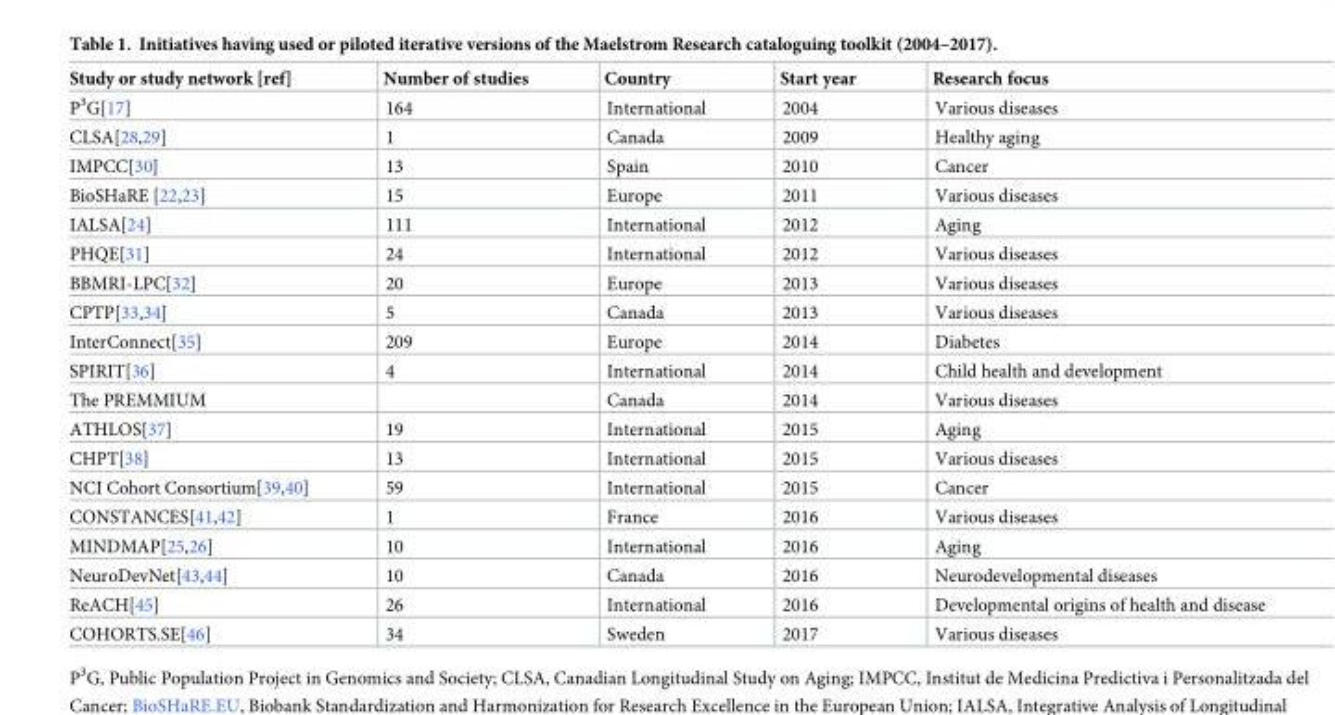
<table><thead><tr><td>Study or study network [ref]</td><td>Number of studies</td><td>Country</td><td>Start year</td><td>Research focus</td></tr></thead><tbody><tr><td>P<sup>3</sup>G[17]</td><td>164</td><td>International</td><td>2004</td><td>Various diseases</td></tr><tr><td>CLSA[28,29]</td><td>1</td><td>Canada</td><td>2009</td><td>Healthy aging</td></tr><tr><td>IMPCC[30]</td><td>13</td><td>Spain</td><td>2010</td><td>Cancer</td></tr><tr><td>BioSHaRE [22,23]</td><td>15</td><td>Europe</td><td>2011</td><td>Various diseases</td></tr><tr><td>IALSA[24]</td><td>111</td><td>International</td><td>2012</td><td>Aging</td></tr><tr><td>PHQE[31]</td><td>24</td><td>International</td><td>2012</td><td>Various diseases</td></tr><tr><td>BBMRI-LPC[32]</td><td>20</td><td>Europe</td><td>2013</td><td>Various diseases</td></tr><tr><td>CPTP[33,34]</td><td>5</td><td>Canada</td><td>2013</td><td>Various diseases</td></tr><tr><td>InterConnect[35]</td><td>209</td><td>Europe</td><td>2014</td><td>Diabetes</td></tr><tr><td>SPIRIT[36]</td><td>4</td><td>International</td><td>2014</td><td>Child health and development</td></tr><tr><td>The PREMMIUM</td><td></td><td>Canada</td><td>2014</td><td>Various diseases</td></tr><tr><td>ATHLOS[37]</td><td>19</td><td>International</td><td>2015</td><td>Aging</td></tr><tr><td>CHPT[38]</td><td>13</td><td>International</td><td>2015</td><td>Various diseases</td></tr><tr><td>NCI Cohort Consortium[39,40]</td><td>59</td><td>International</td><td>2015</td><td>Cancer</td></tr><tr><td>CONSTANCES[41,42]</td><td>1</td><td>France</td><td>2016</td><td>Various diseases</td></tr><tr><td>MINDMAP[25,26]</td><td>10</td><td>International</td><td>2016</td><td>Aging</td></tr><tr><td>NeuroDevNet[43,44]</td><td>10</td><td>Canada</td><td>2016</td><td>Neurodevelopmental diseases</td></tr><tr><td>ReACH[45]</td><td>26</td><td>International</td><td>2016</td><td>Developmental origins of health and disease</td></tr><tr><td>COHORTS.SE[46]</td><td>34</td><td>Sweden</td><td>2017</td><td>Various diseases</td></tr></tbody></table>